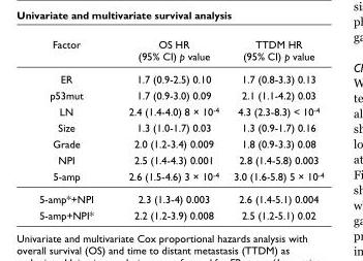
<table><thead><tr><td>Factor</td><td>OS HR (95% CI) p value</td><td>TTDM HR (95% CI) p value</td></tr></thead><tbody><tr><td>ER</td><td>1.7 (0.9-2.5) 0.10</td><td>1.7 (0.8-3.3) 0.13</td></tr><tr><td>p53mut</td><td>1.7 (0.9-3.0) 0.09</td><td>2.1 (1.1-4.2) 0.03</td></tr><tr><td>LN</td><td>2.4 (1.4-4.0) 8 × 10<sup>-4</sup></td><td>4.3 (2.3-8.3) &lt; 10<sup>-4</sup></td></tr><tr><td>Size</td><td>1.3 (1.0-1.7) 0.03</td><td>1.3 (0.9-1.7) 0.16</td></tr><tr><td>Grade</td><td>2.0 (1.2-3.4) 0.009</td><td>1.8 (0.9-3.3) 0.08</td></tr><tr><td>NPI</td><td>2.5 (1.4-4.3) 0.001</td><td>2.8 (1.4-5.8) 0.003</td></tr><tr><td>5-amp</td><td>2.6 (1.5-4.6) 3 × 10<sup>-4</sup></td><td>3.0 (1.6-5.8) 5 × 10<sup>-4</sup></td></tr><tr><td>5-amp*+NPI</td><td>2.3 (1.3-4) 0.003</td><td>2.6 (1.4-5.1) 0.004</td></tr><tr><td>5-amp+NPI*</td><td>2.2 (1.2-3.9) 0.008</td><td>2.5 (1.2-5.1) 0.02</td></tr></tbody></table>